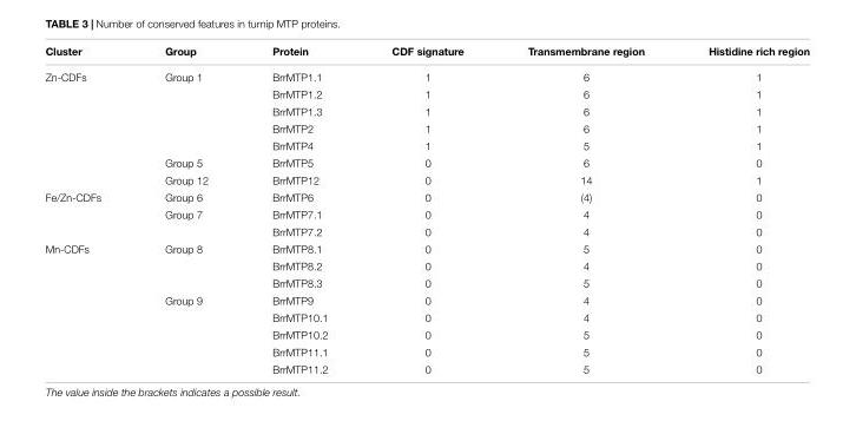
<table><thead><tr><td>Cluster</td><td>Group</td><td>Protein</td><td>CDF signature</td><td>Transmembrane region</td><td>Histidine rich region</td></tr></thead><tbody><tr><td rowspan="7">Zn-CDFs</td><td>Group 1</td><td>BrrMTP1.1</td><td>1</td><td>6</td><td>1</td></tr><tr><td></td><td>BrrMTP1.2</td><td>1</td><td>6</td><td>1</td></tr><tr><td></td><td>BrrMTP1.3</td><td>1</td><td>6</td><td>1</td></tr><tr><td></td><td>BrrMTP2</td><td>1</td><td>6</td><td>1</td></tr><tr><td></td><td>BrrMTP4</td><td>1</td><td>5</td><td>1</td></tr><tr><td>Group 5</td><td>BrrMTP5</td><td>0</td><td>6</td><td>0</td></tr><tr><td>Group 12</td><td>BrrMTP12</td><td>0</td><td>14</td><td>1</td></tr><tr><td rowspan="3">Fe/Zn-CDFs</td><td>Group 6</td><td>BrrMTP6</td><td>0</td><td>(4)</td><td>0</td></tr><tr><td>Group 7</td><td>BrrMTP7.1</td><td>0</td><td>4</td><td>0</td></tr><tr><td></td><td>BrrMTP7.2</td><td>0</td><td>4</td><td>0</td></tr><tr><td rowspan="8">Mn-CDFs</td><td>Group 8</td><td>BrrMTP8.1</td><td>0</td><td>5</td><td>0</td></tr><tr><td></td><td>BrrMTP8.2</td><td>0</td><td>4</td><td>0</td></tr><tr><td></td><td>BrrMTP8.3</td><td>0</td><td>5</td><td>0</td></tr><tr><td>Group 9</td><td>BrrMTP9</td><td>0</td><td>4</td><td>0</td></tr><tr><td></td><td>BrrMTP10.1</td><td>0</td><td>4</td><td>0</td></tr><tr><td></td><td>BrrMTP10.2</td><td>0</td><td>5</td><td>0</td></tr><tr><td></td><td>BrrMTP11.1</td><td>0</td><td>5</td><td>0</td></tr><tr><td></td><td>BrrMTP11.2</td><td>0</td><td>5</td><td>0</td></tr></tbody></table>